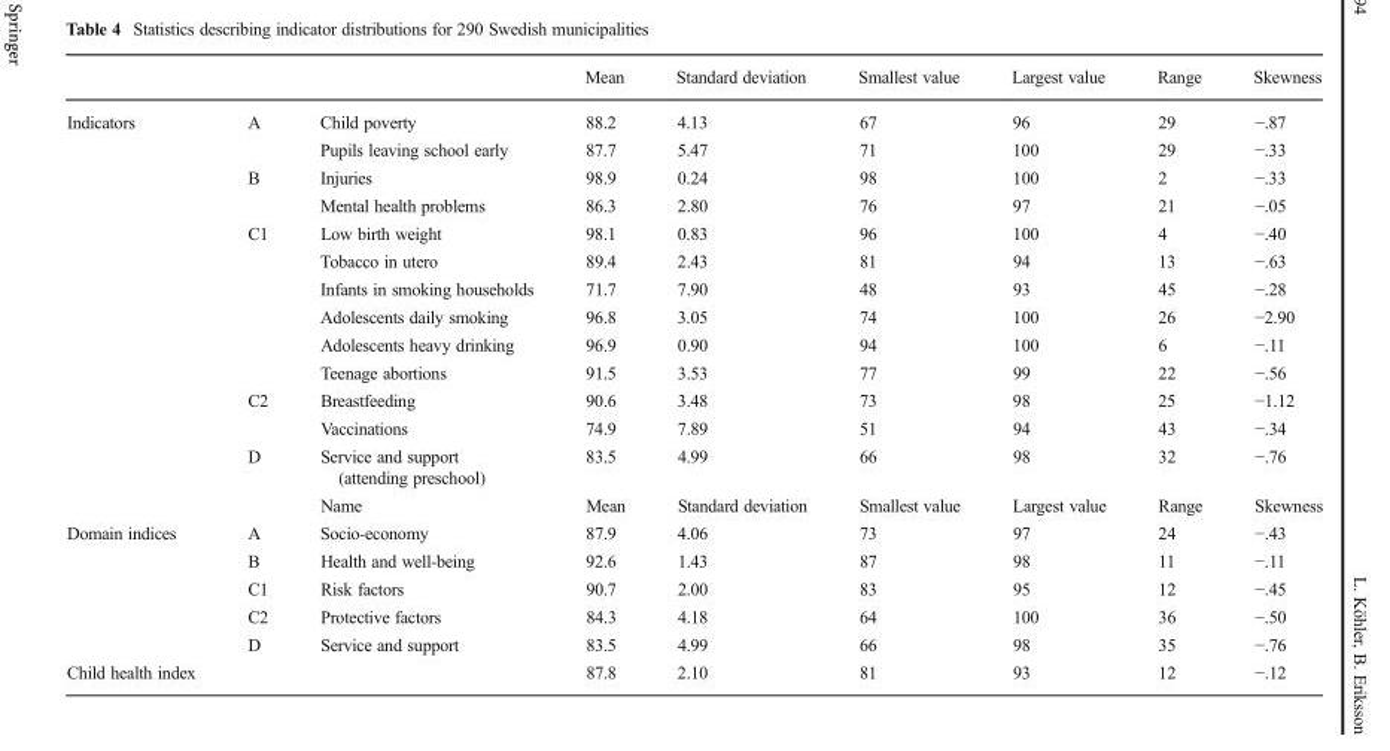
<table><thead><tr><td></td><td></td><td></td><td>Mean</td><td>Standard deviation</td><td>Smallest value</td><td>Largest value</td><td>Range</td><td>Skewness</td></tr></thead><tbody><tr><td rowspan="14">Indicators</td><td rowspan="2">A</td><td>Child poverty</td><td>88.2</td><td>4.13</td><td>67</td><td>96</td><td>29</td><td>−.87</td></tr><tr><td>Pupils leaving school early</td><td>87.7</td><td>5.47</td><td>71</td><td>100</td><td>29</td><td>−.33</td></tr><tr><td rowspan="2">B</td><td>Injuries</td><td>98.9</td><td>0.24</td><td>98</td><td>100</td><td>2</td><td>−.33</td></tr><tr><td>Mental health problems</td><td>86.3</td><td>2.80</td><td>76</td><td>97</td><td>21</td><td>−.05</td></tr><tr><td rowspan="6">C1</td><td>Low birth weight</td><td>98.1</td><td>0.83</td><td>96</td><td>100</td><td>4</td><td>−.40</td></tr><tr><td>Tobacco in utero</td><td>89.4</td><td>2.43</td><td>81</td><td>94</td><td>13</td><td>−.63</td></tr><tr><td>Infants in smoking households</td><td>71.7</td><td>7.90</td><td>48</td><td>93</td><td>45</td><td>−.28</td></tr><tr><td>Adolescents daily smoking</td><td>96.8</td><td>3.05</td><td>74</td><td>100</td><td>26</td><td>−2.90</td></tr><tr><td>Adolescents heavy drinking</td><td>96.9</td><td>0.90</td><td>94</td><td>100</td><td>6</td><td>−.11</td></tr><tr><td>Teenage abortions</td><td>91.5</td><td>3.53</td><td>77</td><td>99</td><td>22</td><td>−.56</td></tr><tr><td rowspan="2">C2</td><td>Breastfeeding</td><td>90.6</td><td>3.48</td><td>73</td><td>98</td><td>25</td><td>−1.12</td></tr><tr><td>Vaccinations</td><td>74.9</td><td>7.89</td><td>51</td><td>94</td><td>43</td><td>−.34</td></tr><tr><td>D</td><td>Service and support (attending preschool)</td><td>83.5</td><td>4.99</td><td>66</td><td>98</td><td>32</td><td>−.76</td></tr><tr><td></td><td>Name</td><td>Mean</td><td>Standard deviation</td><td>Smallest value</td><td>Largest value</td><td>Range</td><td>Skewness</td></tr><tr><td rowspan="5">Domain indices</td><td>A</td><td>Socio-economy</td><td>87.9</td><td>4.06</td><td>73</td><td>97</td><td>24</td><td>−.43</td></tr><tr><td>B</td><td>Health and well-being</td><td>92.6</td><td>1.43</td><td>87</td><td>98</td><td>11</td><td>−.11</td></tr><tr><td>C1</td><td>Risk factors</td><td>90.7</td><td>2.00</td><td>83</td><td>95</td><td>12</td><td>−.45</td></tr><tr><td>C2</td><td>Protective factors</td><td>84.3</td><td>4.18</td><td>64</td><td>100</td><td>36</td><td>−.50</td></tr><tr><td>D</td><td>Service and support</td><td>83.5</td><td>4.99</td><td>66</td><td>98</td><td>35</td><td>−.76</td></tr><tr><td>Child health index</td><td></td><td></td><td>87.8</td><td>2.10</td><td>81</td><td>93</td><td>12</td><td>−.12</td></tr></tbody></table>